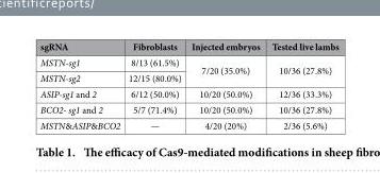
<table><thead><tr><td>sgRNA</td><td>Fibroblasts</td><td>Injected embryos</td><td>Tested live lambs</td></tr></thead><tbody><tr><td>MSTN-sg1</td><td>8/13 (61.5%)</td><td rowspan="2">7/20 (35.0%)</td><td rowspan="2">10/36 (27.8%)</td></tr><tr><td>MSTN-sg2</td><td>12/15 (80.0%)</td></tr><tr><td>ASIP-sg1 and 2</td><td>6/12 (50.0%)</td><td>10/20 (50.0%)</td><td>12/36 (33.3%)</td></tr><tr><td>BCO2- sg1 and 2</td><td>5/7 (71.4%)</td><td>10/20 (50.0%)</td><td>10/36 (27.8%)</td></tr><tr><td>MSTN&amp;ASIP&amp;BCO2</td><td>—</td><td>4/20 (20%)</td><td>2/36 (5.6%)</td></tr></tbody></table>